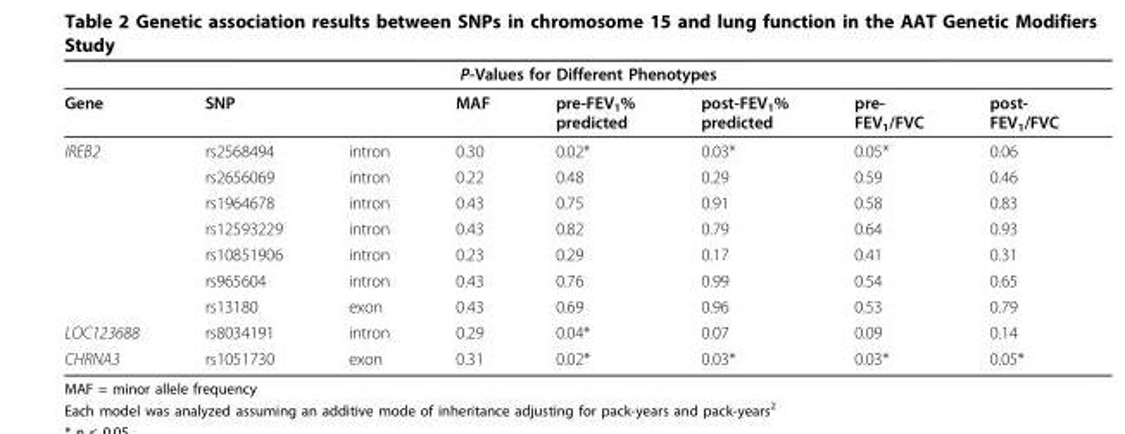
<table><thead><tr><td colspan="8">P-Values for Different Phenotypes</td></tr><tr><td>Gene</td><td>SNP</td><td></td><td>MAF</td><td>pre-FEV<sub>1</sub>% predicted</td><td>post-FEV<sub>1</sub>% predicted</td><td>pre- FEV<sub>1</sub>/FVC</td><td>post- FEV<sub>1</sub>/FVC</td></tr></thead><tbody><tr><td rowspan="7">IREB2</td><td>rs2568494</td><td>intron</td><td>0.30</td><td>0.02*</td><td>0.03*</td><td>0.05*</td><td>0.06</td></tr><tr><td>rs2656069</td><td>intron</td><td>0.22</td><td>0.48</td><td>0.29</td><td>0.59</td><td>0.46</td></tr><tr><td>rs1964678</td><td>intron</td><td>0.43</td><td>0.75</td><td>0.91</td><td>0.58</td><td>0.83</td></tr><tr><td>rs12593229</td><td>intron</td><td>0.43</td><td>0.82</td><td>0.79</td><td>0.64</td><td>0.93</td></tr><tr><td>rs10851906</td><td>intron</td><td>0.23</td><td>0.29</td><td>0.17</td><td>0.41</td><td>0.31</td></tr><tr><td>rs965604</td><td>intron</td><td>0.43</td><td>0.76</td><td>0.99</td><td>0.54</td><td>0.65</td></tr><tr><td>rs13180</td><td>exon</td><td>0.43</td><td>0.69</td><td>0.96</td><td>0.53</td><td>0.79</td></tr><tr><td>LOC123688</td><td>rs8034191</td><td>intron</td><td>0.29</td><td>0.04*</td><td>0.07</td><td>0.09</td><td>0.14</td></tr><tr><td>CHRNA3</td><td>rs1051730</td><td>exon</td><td>0.31</td><td>0.02*</td><td>0.03*</td><td>0.03*</td><td>0.05*</td></tr></tbody></table>